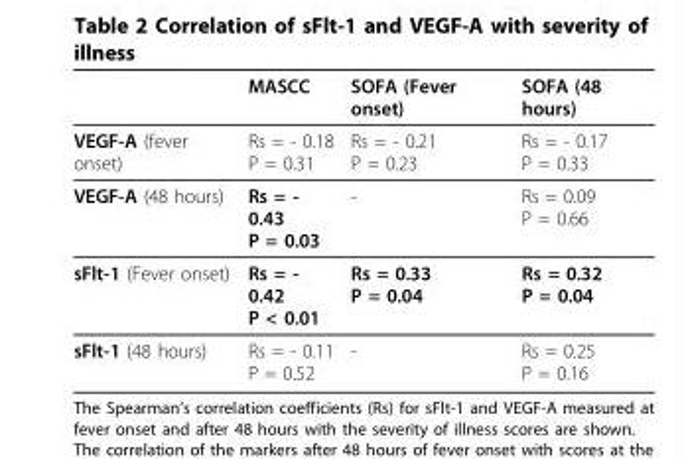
<table><thead><tr><td></td><td>MASCC</td><td>SOFA (Fever onset)</td><td>SOFA (48 hours)</td></tr></thead><tbody><tr><td>VEGF-A (fever onset)</td><td>Rs = - 0.18 P = 0.31</td><td>Rs = - 0.21 P = 0.23</td><td>Rs = - 0.17 P = 0.33</td></tr><tr><td>VEGF-A (48 hours)</td><td>Rs = - 0.43 P = 0.03</td><td>-</td><td>Rs = 0.09 P = 0.66</td></tr><tr><td>sFlt-1 (Fever onset)</td><td>Rs = - 0.42 P &lt; 0.01</td><td>Rs = 0.33 P = 0.04</td><td>Rs = 0.32 P = 0.04</td></tr><tr><td>sFlt-1 (48 hours)</td><td>Rs = - 0.11 P = 0.52</td><td>-</td><td>Rs = 0.25 P = 0.16</td></tr></tbody></table>